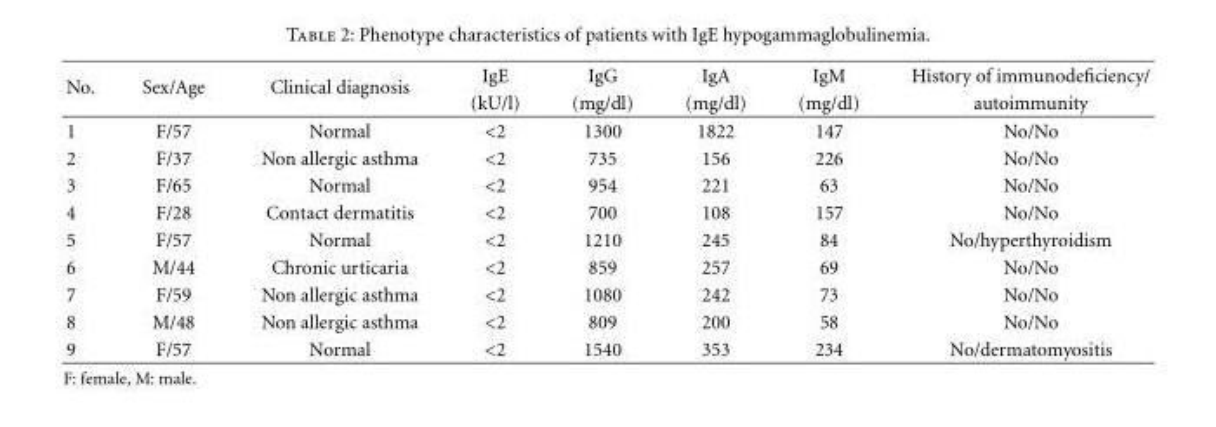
<table><thead><tr><td rowspan="2">No.</td><td rowspan="2">Sex/Age</td><td rowspan="2">Clinical diagnosis</td><td rowspan="2">IgE (kU/l)</td><td rowspan="2">IgG (mg/dl)</td><td rowspan="2">IgA (mg/dl)</td><td rowspan="2">IgM (mg/dl)</td><td rowspan="2">History of immunodeficiency/ autoimmunity</td></tr><tr></tr></thead><tbody><tr><td>1</td><td>F/57</td><td>Normal</td><td>&lt;2</td><td>1300</td><td>1822</td><td>147</td><td>No/No</td></tr><tr><td>2</td><td>F/37</td><td>Non allergic asthma</td><td>&lt;2</td><td>735</td><td>156</td><td>226</td><td>No/No</td></tr><tr><td>3</td><td>F/65</td><td>Normal</td><td>&lt;2</td><td>954</td><td>221</td><td>63</td><td>No/No</td></tr><tr><td>4</td><td>F/28</td><td>Contact dermatitis</td><td>&lt;2</td><td>700</td><td>108</td><td>157</td><td>No/No</td></tr><tr><td>5</td><td>F/57</td><td>Normal</td><td>&lt;2</td><td>1210</td><td>245</td><td>84</td><td>No/hyperthyroidism</td></tr><tr><td>6</td><td>M/44</td><td>Chronic urticaria</td><td>&lt;2</td><td>859</td><td>257</td><td>69</td><td>No/No</td></tr><tr><td>7</td><td>F/59</td><td>Non allergic asthma</td><td>&lt;2</td><td>1080</td><td>242</td><td>73</td><td>No/No</td></tr><tr><td>8</td><td>M/48</td><td>Non allergic asthma</td><td>&lt;2</td><td>809</td><td>200</td><td>58</td><td>No/No</td></tr><tr><td>9</td><td>F/57</td><td>Normal</td><td>&lt;2</td><td>1540</td><td>353</td><td>234</td><td>No/dermatomyositis</td></tr></tbody></table>